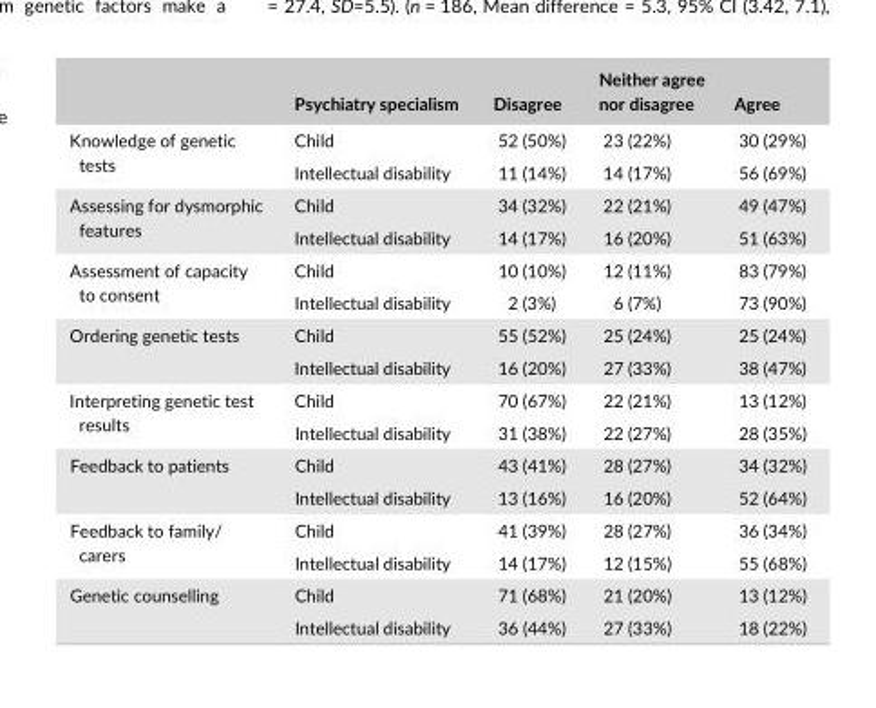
<table><thead><tr><td></td><td>Psychiatry specialism</td><td>Disagree</td><td>Neither agree nor disagree</td><td>Agree</td></tr></thead><tbody><tr><td rowspan="2">Knowledge of genetic tests</td><td>Child</td><td>52 (50%)</td><td>23 (22%)</td><td>30 (29%)</td></tr><tr><td>Intellectual disability</td><td>11 (14%)</td><td>14 (17%)</td><td>56 (69%)</td></tr><tr><td rowspan="2">Assessing for dysmorphic features</td><td>Child</td><td>34 (32%)</td><td>22 (21%)</td><td>49 (47%)</td></tr><tr><td>Intellectual disability</td><td>14 (17%)</td><td>16 (20%)</td><td>51 (63%)</td></tr><tr><td rowspan="2">Assessment of capacity to consent</td><td>Child</td><td>10 (10%)</td><td>12 (11%)</td><td>83 (79%)</td></tr><tr><td>Intellectual disability</td><td>2 (3%)</td><td>6 (7%)</td><td>73 (90%)</td></tr><tr><td rowspan="2">Ordering genetic tests</td><td>Child</td><td>55 (52%)</td><td>25 (24%)</td><td>25 (24%)</td></tr><tr><td>Intellectual disability</td><td>16 (20%)</td><td>27 (33%)</td><td>38 (47%)</td></tr><tr><td rowspan="2">Interpreting genetic test results</td><td>Child</td><td>70 (67%)</td><td>22 (21%)</td><td>13 (12%)</td></tr><tr><td>Intellectual disability</td><td>31 (38%)</td><td>22 (27%)</td><td>28 (35%)</td></tr><tr><td rowspan="2">Feedback to patients</td><td>Child</td><td>43 (41%)</td><td>28 (27%)</td><td>34 (32%)</td></tr><tr><td>Intellectual disability</td><td>13 (16%)</td><td>16 (20%)</td><td>52 (64%)</td></tr><tr><td rowspan="2">Feedback to family/ carers</td><td>Child</td><td>41 (39%)</td><td>28 (27%)</td><td>36 (34%)</td></tr><tr><td>Intellectual disability</td><td>14 (17%)</td><td>12 (15%)</td><td>55 (68%)</td></tr><tr><td rowspan="2">Genetic counselling</td><td>Child</td><td>71 (68%)</td><td>21 (20%)</td><td>13 (12%)</td></tr><tr><td>Intellectual disability</td><td>36 (44%)</td><td>27 (33%)</td><td>18 (22%)</td></tr></tbody></table>